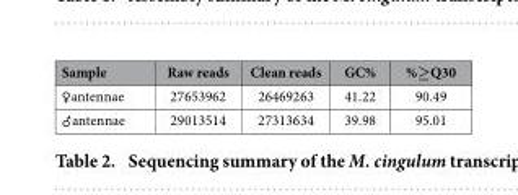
<table><thead><tr><td>Sample</td><td>Raw reads</td><td>Clean reads</td><td>GC%</td><td>%≥Q30</td></tr></thead><tbody><tr><td>♀ antennae</td><td>27653962</td><td>26469263</td><td>41.22</td><td>90.49</td></tr><tr><td>♂ antennae</td><td>29013514</td><td>27313634</td><td>39.98</td><td>95.01</td></tr></tbody></table>